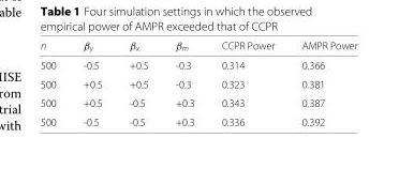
<table><thead><tr><td>n</td><td>β<sub>y</sub></td><td>β<sub>x</sub></td><td>β<sub>m</sub></td><td>CCPR Power</td><td>AMPR Power</td></tr></thead><tbody><tr><td>500</td><td>-0.5</td><td>+0.5</td><td>-0.3</td><td>0.314</td><td>0.366</td></tr><tr><td>500</td><td>+0.5</td><td>+0.5</td><td>-0.3</td><td>0.323</td><td>0.381</td></tr><tr><td>500</td><td>+0.5</td><td>-0.5</td><td>+0.3</td><td>0.343</td><td>0.387</td></tr><tr><td>500</td><td>-0.5</td><td>-0.5</td><td>+0.3</td><td>0.336</td><td>0.392</td></tr></tbody></table>